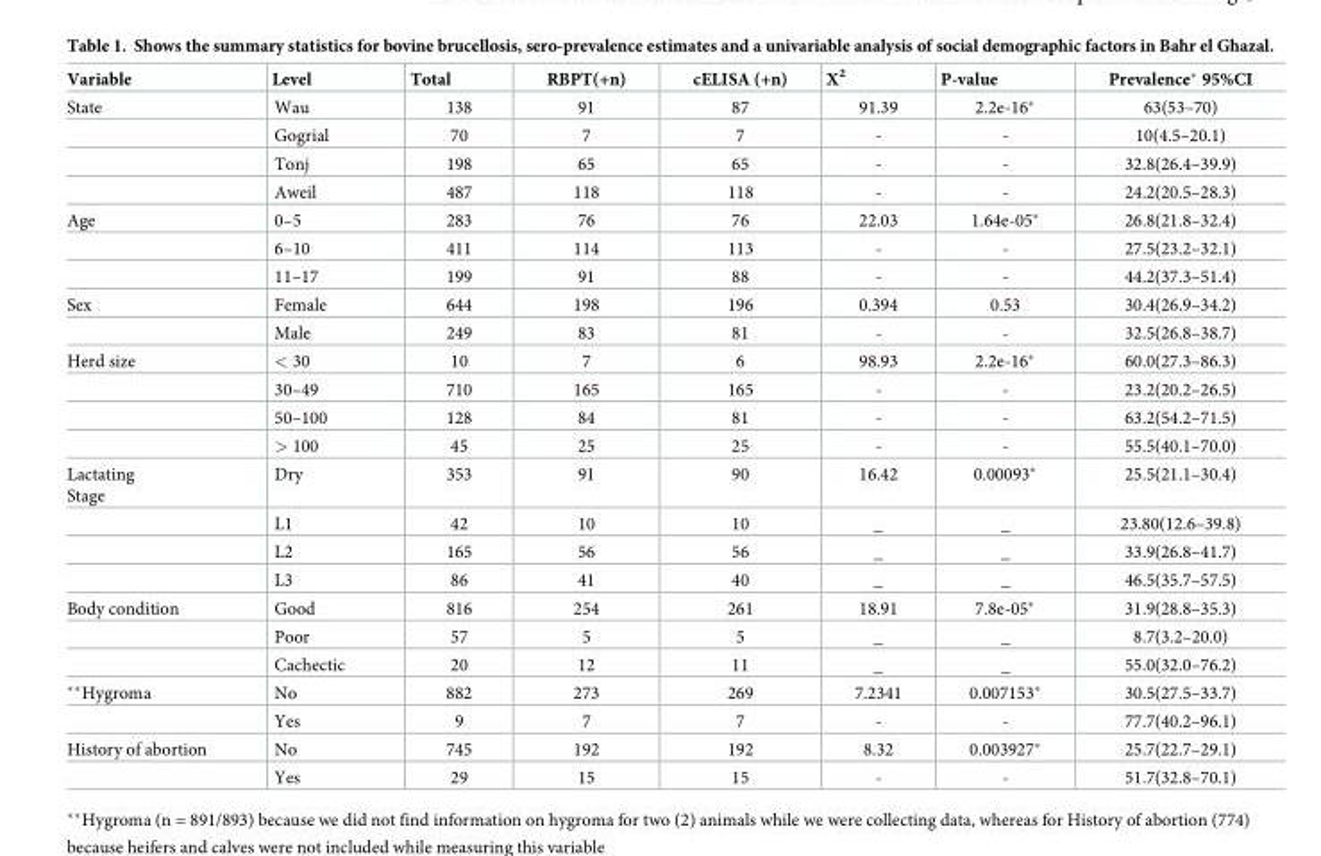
<table><thead><tr><td>Variable</td><td>Level</td><td>Total</td><td>RBPT(+n)</td><td>cELISA (+n)</td><td>X<sup>2</sup></td><td>P-value</td><td>Prevalence* 95%CI</td></tr></thead><tbody><tr><td rowspan="4">State</td><td>Wau</td><td>138</td><td>91</td><td>87</td><td>91.39</td><td>2.2e-16*</td><td>63(53–70)</td></tr><tr><td>Gogrial</td><td>70</td><td>7</td><td>7</td><td>-</td><td>-</td><td>10(4.5–20.1)</td></tr><tr><td>Tonj</td><td>198</td><td>65</td><td>65</td><td>-</td><td>-</td><td>32.8(26.4–39.9)</td></tr><tr><td>Aweil</td><td>487</td><td>118</td><td>118</td><td>-</td><td>-</td><td>24.2(20.5–28.3)</td></tr><tr><td rowspan="3">Age</td><td>0–5</td><td>283</td><td>76</td><td>76</td><td>22.03</td><td>1.64e-05*</td><td>26.8(21.8–32.4)</td></tr><tr><td>6–10</td><td>411</td><td>114</td><td>113</td><td>-</td><td>-</td><td>27.5(23.2–32.1)</td></tr><tr><td>11–17</td><td>199</td><td>91</td><td>88</td><td>-</td><td>-</td><td>44.2(37.3–51.4)</td></tr><tr><td rowspan="2">Sex</td><td>Female</td><td>644</td><td>198</td><td>196</td><td>0.394</td><td>0.53</td><td>30.4(26.9–34.2)</td></tr><tr><td>Male</td><td>249</td><td>83</td><td>81</td><td>-</td><td>-</td><td>32.5(26.8–38.7)</td></tr><tr><td rowspan="4">Herd size</td><td>&lt; 30</td><td>10</td><td>7</td><td>6</td><td>98.93</td><td>2.2e-16*</td><td>60.0(27.3–86.3)</td></tr><tr><td>30–49</td><td>710</td><td>165</td><td>165</td><td>-</td><td>-</td><td>23.2(20.2–26.5)</td></tr><tr><td>50–100</td><td>128</td><td>84</td><td>81</td><td>-</td><td>-</td><td>63.2(54.2–71.5)</td></tr><tr><td>&gt; 100</td><td>45</td><td>25</td><td>25</td><td>-</td><td>-</td><td>55.5(40.1–70.0)</td></tr><tr><td rowspan="4">Lactating Stage</td><td>Dry</td><td>353</td><td>91</td><td>90</td><td>16.42</td><td>0.00093*</td><td>25.5(21.1–30.4)</td></tr><tr><td>L1</td><td>42</td><td>10</td><td>10</td><td>_</td><td>_</td><td>23.80(12.6–39.8)</td></tr><tr><td>L2</td><td>165</td><td>56</td><td>56</td><td>_</td><td>_</td><td>33.9(26.8–41.7)</td></tr><tr><td>L3</td><td>86</td><td>41</td><td>40</td><td>_</td><td>_</td><td>46.5(35.7–57.5)</td></tr><tr><td rowspan="3">Body condition</td><td>Good</td><td>816</td><td>254</td><td>261</td><td>18.91</td><td>7.8e-05*</td><td>31.9(28.8–35.3)</td></tr><tr><td>Poor</td><td>57</td><td>5</td><td>5</td><td>_</td><td>_</td><td>8.7(3.2–20.0)</td></tr><tr><td>Cachectic</td><td>20</td><td>12</td><td>11</td><td>_</td><td>_</td><td>55.0(32.0–76.2)</td></tr><tr><td rowspan="2">**Hygroma</td><td>No</td><td>882</td><td>273</td><td>269</td><td>7.2341</td><td>0.007153*</td><td>30.5(27.5–33.7)</td></tr><tr><td>Yes</td><td>9</td><td>7</td><td>7</td><td>-</td><td>-</td><td>77.7(40.2–96.1)</td></tr><tr><td rowspan="2">History of abortion</td><td>No</td><td>745</td><td>192</td><td>192</td><td>8.32</td><td>0.003927*</td><td>25.7(22.7–29.1)</td></tr><tr><td>Yes</td><td>29</td><td>15</td><td>15</td><td>-</td><td>-</td><td>51.7(32.8–70.1)</td></tr></tbody></table>